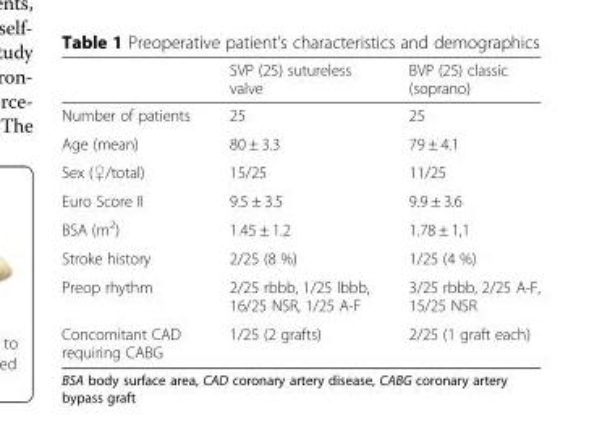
<table><thead><tr><td></td><td>SVP (25) sutureless valve</td><td>BVP (25) classic (soprano)</td></tr></thead><tbody><tr><td>Number of patients</td><td>25</td><td>25</td></tr><tr><td>Age (mean)</td><td>80 ± 3.3</td><td>79 ± 4.1</td></tr><tr><td>Sex (♀/total)</td><td>15/25</td><td>11/25</td></tr><tr><td>Euro Score II</td><td>9.5 ± 3.5</td><td>9.9 ± 3.6</td></tr><tr><td>BSA (m<sup>2</sup>)</td><td>1.45 ± 1.2</td><td>1.78 ± 1,1</td></tr><tr><td>Stroke history</td><td>2/25 (8 %)</td><td>1/25 (4 %)</td></tr><tr><td>Preop rhythm</td><td>2/25 rbbb, 1/25 lbbb, 16/25 NSR, 1/25 A-F</td><td>3/25 rbbb, 2/25 A-F, 15/25 NSR</td></tr><tr><td>Concomitant CAD requiring CABG</td><td>1/25 (2 grafts)</td><td>2/25 (1 graft each)</td></tr></tbody></table>